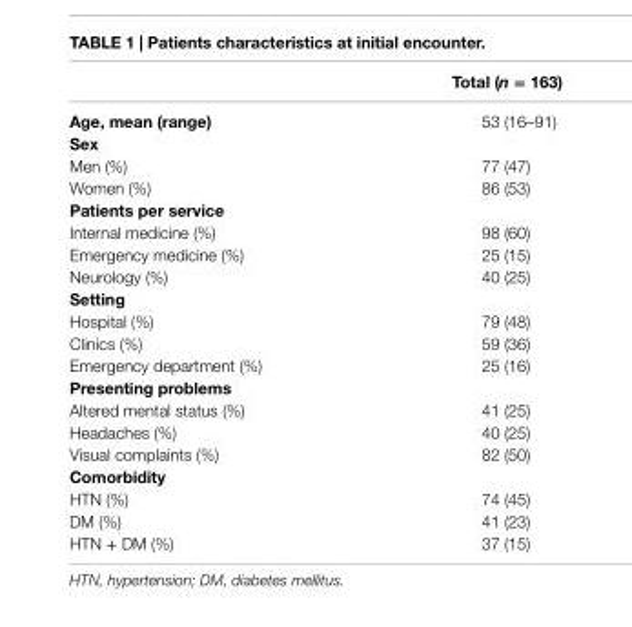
<table><thead><tr><td></td><td>Total (n = 163)</td></tr></thead><tbody><tr><td>age, mean (range)</td><td>53 (16–91)</td></tr><tr><td colspan="2">sex</td></tr><tr><td>Men (%)</td><td>77 (47)</td></tr><tr><td>Women (%)</td><td>86 (53)</td></tr><tr><td colspan="2">Patients per service</td></tr><tr><td>Internal medicine (%)</td><td>98 (60)</td></tr><tr><td>Emergency medicine (%)</td><td>25 (15)</td></tr><tr><td>Neurology (%)</td><td>40 (25)</td></tr><tr><td colspan="2">setting</td></tr><tr><td>Hospital (%)</td><td>79 (48)</td></tr><tr><td>Clinics (%)</td><td>59 (36)</td></tr><tr><td>Emergency department (%)</td><td>25 (16)</td></tr><tr><td colspan="2">Presenting problems</td></tr><tr><td>Altered mental status (%)</td><td>41 (25)</td></tr><tr><td>Headaches (%)</td><td>40 (25)</td></tr><tr><td>Visual complaints (%)</td><td>82 (50)</td></tr><tr><td colspan="2">comorbidity</td></tr><tr><td>HTN (%)</td><td>74 (45)</td></tr><tr><td>DM (%)</td><td>41 (23)</td></tr><tr><td>HTN + DM (%)</td><td>37 (15)</td></tr></tbody></table>